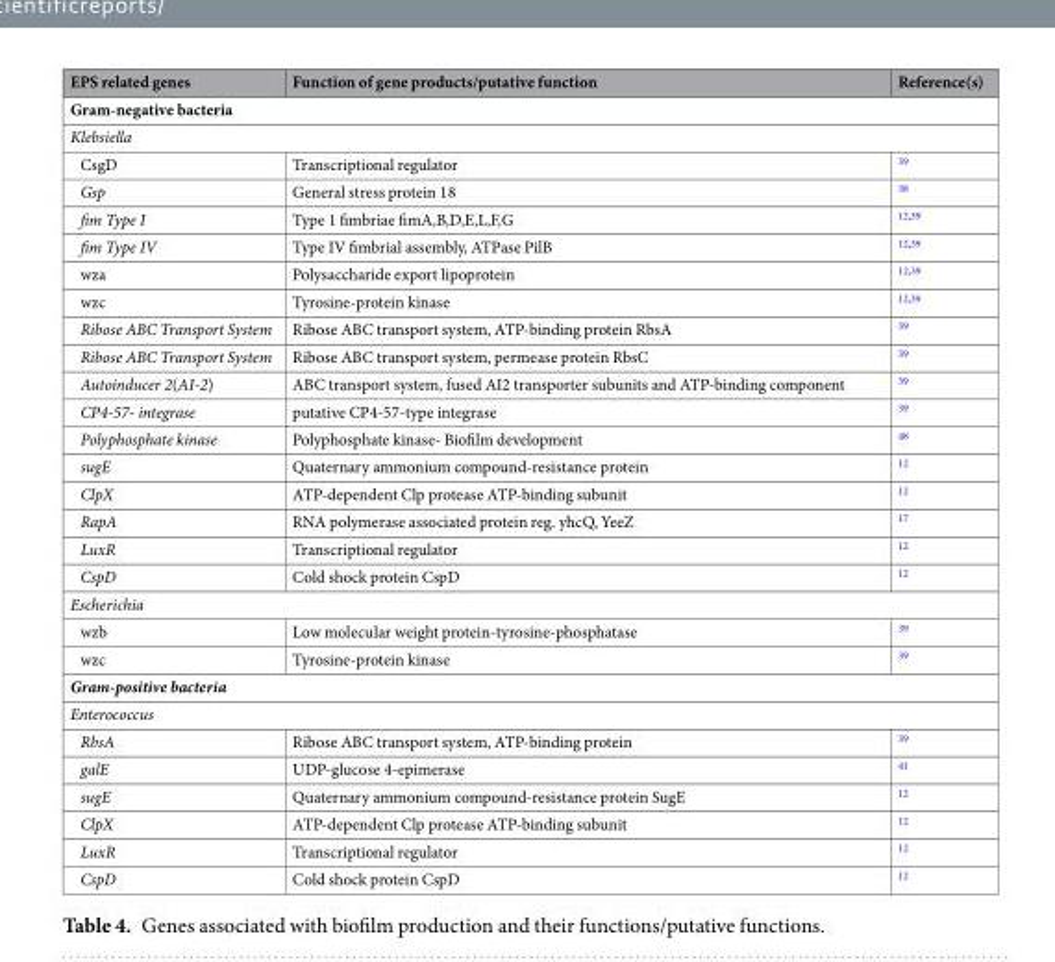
<table><thead><tr><td>EPS related genes</td><td>Function of gene products/putative function</td><td>Reference(s)</td></tr></thead><tbody><tr><td colspan="3">Gram-negative bacteria</td></tr><tr><td colspan="3">Klebsiella</td></tr><tr><td>CsgD</td><td>Transcriptional regulator</td><td><sup>39</sup></td></tr><tr><td>Gsp</td><td>General stress protein 18</td><td><sup>38</sup></td></tr><tr><td>fim Type I</td><td>Type 1 fimbriae fimA,B,D,E,L,F,G</td><td><sup>12,39</sup></td></tr><tr><td>fim Type IV</td><td>Type IV fimbrial assembly, ATPase PilB</td><td><sup>12,39</sup></td></tr><tr><td>wza</td><td>Polysaccharide export lipoprotein</td><td><sup>12,39</sup></td></tr><tr><td>wzc</td><td>Tyrosine-protein kinase</td><td><sup>12,39</sup></td></tr><tr><td>Ribose ABC Transport System</td><td>Ribose ABC transport system, ATP-binding protein RbsA</td><td><sup>39</sup></td></tr><tr><td>Ribose ABC Transport System</td><td>Ribose ABC transport system, permease protein RbsC</td><td><sup>39</sup></td></tr><tr><td>Autoinducer 2(AI-2)</td><td>ABC transport system, fused AI2 transporter subunits and ATP-binding component</td><td><sup>39</sup></td></tr><tr><td>CP4-57- integrase</td><td>putative CP4-57-type integrase</td><td><sup>39</sup></td></tr><tr><td>Polyphosphate kinase</td><td>Polyphosphate kinase- Biofilm development</td><td><sup>48</sup></td></tr><tr><td>sugE</td><td>Quaternary ammonium compound-resistance protein</td><td><sup>12</sup></td></tr><tr><td>ClpX</td><td>ATP-dependent Clp protease ATP-binding subunit</td><td><sup>12</sup></td></tr><tr><td>RapA</td><td>RNA polymerase associated protein reg. yhcQ, YeeZ</td><td><sup>17</sup></td></tr><tr><td>LuxR</td><td>Transcriptional regulator</td><td><sup>12</sup></td></tr><tr><td>CspD</td><td>Cold shock protein CspD</td><td><sup>12</sup></td></tr><tr><td colspan="3">Escherichia</td></tr><tr><td>wzb</td><td>Low molecular weight protein-tyrosine-phosphatase</td><td><sup>39</sup></td></tr><tr><td>wzc</td><td>Tyrosine-protein kinase</td><td><sup>39</sup></td></tr><tr><td colspan="3">Gram-positive bacteria</td></tr><tr><td colspan="3">Enterococcus</td></tr><tr><td>RbsA</td><td>Ribose ABC transport system, ATP-binding protein</td><td><sup>39</sup></td></tr><tr><td>galE</td><td>UDP-glucose 4-epimerase</td><td><sup>41</sup></td></tr><tr><td>sugE</td><td>Quaternary ammonium compound-resistance protein SugE</td><td><sup>12</sup></td></tr><tr><td>ClpX</td><td>ATP-dependent Clp protease ATP-binding subunit</td><td><sup>12</sup></td></tr><tr><td>LuxR</td><td>Transcriptional regulator</td><td><sup>12</sup></td></tr><tr><td>CspD</td><td>Cold shock protein CspD</td><td><sup>12</sup></td></tr></tbody></table>